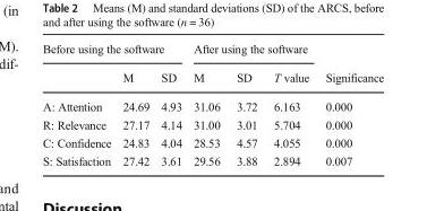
<table><thead><tr><td colspan="3">Before using the software</td><td colspan="3">After using the software</td><td rowspan="2">Significance</td></tr><tr><td></td><td>M</td><td>SD</td><td>M</td><td>SD</td><td>T value</td></tr></thead><tbody><tr><td>A: Attention</td><td>24.69</td><td>4.93</td><td>31.06</td><td>3.72</td><td>6.163</td><td>0.000</td></tr><tr><td>R: Relevance</td><td>27.17</td><td>4.14</td><td>31.00</td><td>3.01</td><td>5.704</td><td>0.000</td></tr><tr><td>C: Confidence</td><td>24.83</td><td>4.04</td><td>28.53</td><td>4.57</td><td>4.055</td><td>0.000</td></tr><tr><td>S: Satisfaction</td><td>27.42</td><td>3.61</td><td>29.56</td><td>3.88</td><td>2.894</td><td>0.007</td></tr></tbody></table>